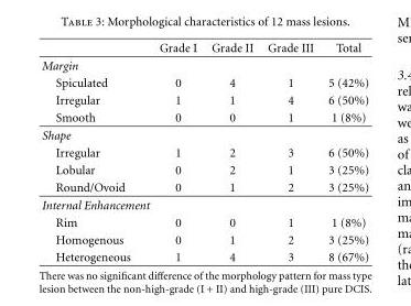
<table><thead><tr><td></td><td>Grade I</td><td>Grade II</td><td>Grade III</td><td>Total</td></tr></thead><tbody><tr><td colspan="5">Margin</td></tr><tr><td>Spiculated</td><td>0</td><td>4</td><td>1</td><td>5 (42%)</td></tr><tr><td>Irregular</td><td>1</td><td>1</td><td>4</td><td>6 (50%)</td></tr><tr><td>Smooth</td><td>0</td><td>0</td><td>1</td><td>1 (8%)</td></tr><tr><td colspan="5">Shape</td></tr><tr><td>Irregular</td><td>1</td><td>2</td><td>3</td><td>6 (50%)</td></tr><tr><td>Lobular</td><td>0</td><td>2</td><td>1</td><td>3 (25%)</td></tr><tr><td>Round/Ovoid</td><td>0</td><td>1</td><td>2</td><td>3 (25%)</td></tr><tr><td colspan="5">Internal Enhancement</td></tr><tr><td>Rim</td><td>0</td><td>0</td><td>1</td><td>1 (8%)</td></tr><tr><td>Homogenous</td><td>0</td><td>1</td><td>2</td><td>3 (25%)</td></tr><tr><td>Heterogeneous</td><td>1</td><td>4</td><td>3</td><td>8 (67%)</td></tr></tbody></table>